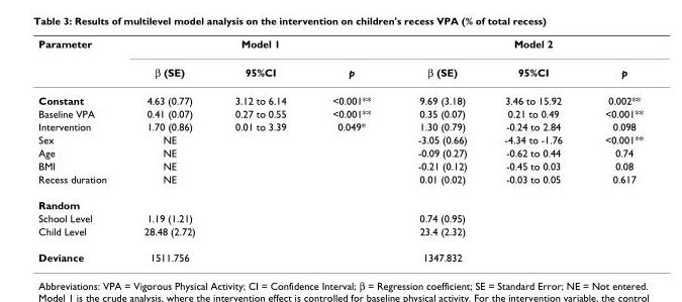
<table><thead><tr><td rowspan="2">Parameter</td><td colspan="3">Model 1</td><td colspan="3">Model 2</td></tr><tr><td>β (SE)</td><td>95%CI</td><td>p</td><td>β (SE)</td><td>95%CI</td><td>p</td></tr></thead><tbody><tr><td>Constant</td><td>4.63 (0.77)</td><td>3.12 to 6.14</td><td>&lt;0.001**</td><td>9.69 (3.18)</td><td>3.46 to 15.92</td><td>0.002**</td></tr><tr><td>Baseline VPA</td><td>0.41 (0.07)</td><td>0.27 to 0.55</td><td>&lt;0.001**</td><td>0.35 (0.07)</td><td>0.21 to 0.49</td><td>&lt;0.001**</td></tr><tr><td>Intervention</td><td>1.70 (0.86)</td><td>0.01 to 3.39</td><td>0.049*</td><td>1.30 (0.79)</td><td>-0.24 to 2.84</td><td>0.098</td></tr><tr><td>Sex</td><td>NE</td><td></td><td></td><td>-3.05 (0.66)</td><td>-4.34 to -1.76</td><td>&lt;0.001**</td></tr><tr><td>Age</td><td>NE</td><td></td><td></td><td>-0.09 (0.27)</td><td>-0.62 to 0.44</td><td>0.74</td></tr><tr><td>BMI</td><td>NE</td><td></td><td></td><td>-0.21 (0.12)</td><td>-0.45 to 0.03</td><td>0.08</td></tr><tr><td>Recess duration</td><td>NE</td><td></td><td></td><td>0.01 (0.02)</td><td>-0.03 to 0.05</td><td>0.617</td></tr><tr><td colspan="7">Random</td></tr><tr><td>School Level</td><td>1.19 (1.21)</td><td></td><td></td><td>0.74 (0.95)</td><td></td><td></td></tr><tr><td>Child Level</td><td>28.48 (2.72)</td><td></td><td></td><td>23.4 (2.32)</td><td></td><td></td></tr><tr><td>Deviance</td><td>1511.756</td><td></td><td></td><td>1347.832</td><td></td><td></td></tr></tbody></table>